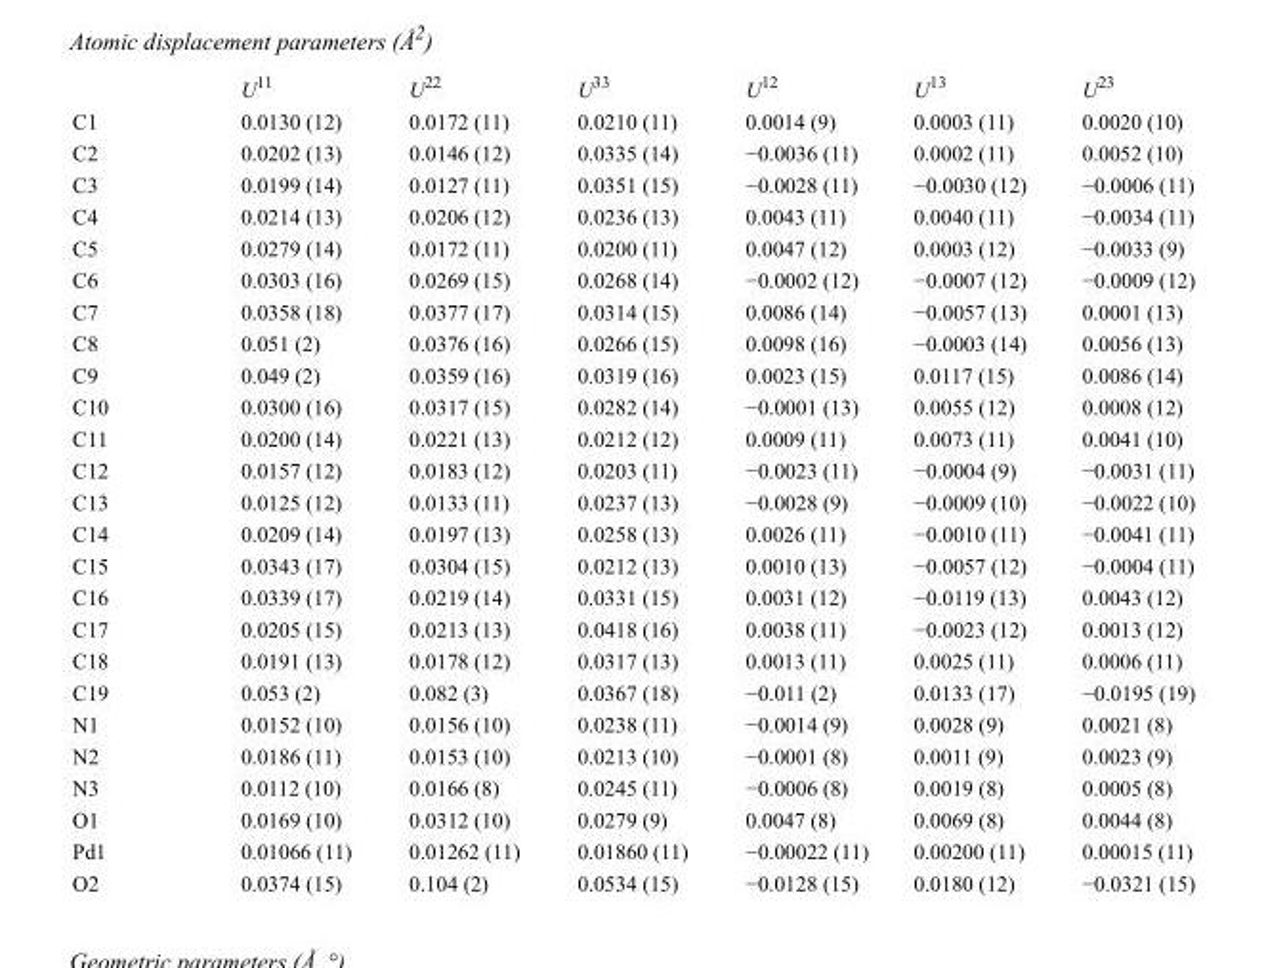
<table><thead><tr><td></td><td>U<sup>11</sup></td><td>U<sup>22</sup></td><td>U<sup>33</sup></td><td>U<sup>12</sup></td><td>U<sup>13</sup></td><td>U<sup>23</sup></td></tr></thead><tbody><tr><td>C1</td><td>0.0130 (12)</td><td>0.0172 (11)</td><td>0.0210 (11)</td><td>0.0014 (9)</td><td>0.0003 (11)</td><td>0.0020 (10)</td></tr><tr><td>C2</td><td>0.0202 (13)</td><td>0.0146 (12)</td><td>0.0335 (14)</td><td>−0.0036 (11)</td><td>0.0002 (11)</td><td>0.0052 (10)</td></tr><tr><td>C3</td><td>0.0199 (14)</td><td>0.0127 (11)</td><td>0.0351 (15)</td><td>−0.0028 (11)</td><td>−0.0030 (12)</td><td>−0.0006 (11)</td></tr><tr><td>C4</td><td>0.0214 (13)</td><td>0.0206 (12)</td><td>0.0236 (13)</td><td>0.0043 (11)</td><td>0.0040 (11)</td><td>−0.0034 (11)</td></tr><tr><td>C5</td><td>0.0279 (14)</td><td>0.0172 (11)</td><td>0.0200 (11)</td><td>0.0047 (12)</td><td>0.0003 (12)</td><td>−0.0033 (9)</td></tr><tr><td>C6</td><td>0.0303 (16)</td><td>0.0269 (15)</td><td>0.0268 (14)</td><td>−0.0002 (12)</td><td>−0.0007 (12)</td><td>−0.0009 (12)</td></tr><tr><td>C7</td><td>0.0358 (18)</td><td>0.0377 (17)</td><td>0.0314 (15)</td><td>0.0086 (14)</td><td>−0.0057 (13)</td><td>0.0001 (13)</td></tr><tr><td>C8</td><td>0.051 (2)</td><td>0.0376 (16)</td><td>0.0266 (15)</td><td>0.0098 (16)</td><td>−0.0003 (14)</td><td>0.0056 (13)</td></tr><tr><td>C9</td><td>0.049 (2)</td><td>0.0359 (16)</td><td>0.0319 (16)</td><td>0.0023 (15)</td><td>0.0117 (15)</td><td>0.0086 (14)</td></tr><tr><td>C10</td><td>0.0300 (16)</td><td>0.0317 (15)</td><td>0.0282 (14)</td><td>−0.0001 (13)</td><td>0.0055 (12)</td><td>0.0008 (12)</td></tr><tr><td>C11</td><td>0.0200 (14)</td><td>0.0221 (13)</td><td>0.0212 (12)</td><td>0.0009 (11)</td><td>0.0073 (11)</td><td>0.0041 (10)</td></tr><tr><td>C12</td><td>0.0157 (12)</td><td>0.0183 (12)</td><td>0.0203 (11)</td><td>−0.0023 (11)</td><td>−0.0004 (9)</td><td>−0.0031 (11)</td></tr><tr><td>C13</td><td>0.0125 (12)</td><td>0.0133 (11)</td><td>0.0237 (13)</td><td>−0.0028 (9)</td><td>−0.0009 (10)</td><td>−0.0022 (10)</td></tr><tr><td>C14</td><td>0.0209 (14)</td><td>0.0197 (13)</td><td>0.0258 (13)</td><td>0.0026 (11)</td><td>−0.0010 (11)</td><td>−0.0041 (11)</td></tr><tr><td>C15</td><td>0.0343 (17)</td><td>0.0304 (15)</td><td>0.0212 (13)</td><td>0.0010 (13)</td><td>−0.0057 (12)</td><td>−0.0004 (11)</td></tr><tr><td>C16</td><td>0.0339 (17)</td><td>0.0219 (14)</td><td>0.0331 (15)</td><td>0.0031 (12)</td><td>−0.0119 (13)</td><td>0.0043 (12)</td></tr><tr><td>C17</td><td>0.0205 (15)</td><td>0.0213 (13)</td><td>0.0418 (16)</td><td>0.0038 (11)</td><td>−0.0023 (12)</td><td>0.0013 (12)</td></tr><tr><td>C18</td><td>0.0191 (13)</td><td>0.0178 (12)</td><td>0.0317 (13)</td><td>0.0013 (11)</td><td>0.0025 (11)</td><td>0.0006 (11)</td></tr><tr><td>C19</td><td>0.053 (2)</td><td>0.082 (3)</td><td>0.0367 (18)</td><td>−0.011 (2)</td><td>0.0133 (17)</td><td>−0.0195 (19)</td></tr><tr><td>N1</td><td>0.0152 (10)</td><td>0.0156 (10)</td><td>0.0238 (11)</td><td>−0.0014 (9)</td><td>0.0028 (9)</td><td>0.0021 (8)</td></tr><tr><td>N2</td><td>0.0186 (11)</td><td>0.0153 (10)</td><td>0.0213 (10)</td><td>−0.0001 (8)</td><td>0.0011 (9)</td><td>0.0023 (9)</td></tr><tr><td>N3</td><td>0.0112 (10)</td><td>0.0166 (8)</td><td>0.0245 (11)</td><td>−0.0006 (8)</td><td>0.0019 (8)</td><td>0.0005 (8)</td></tr><tr><td>O1</td><td>0.0169 (10)</td><td>0.0312 (10)</td><td>0.0279 (9)</td><td>0.0047 (8)</td><td>0.0069 (8)</td><td>0.0044 (8)</td></tr><tr><td>Pd1</td><td>0.01066 (11)</td><td>0.01262 (11)</td><td>0.01860 (11)</td><td>−0.00022 (11)</td><td>0.00200 (11)</td><td>0.00015 (11)</td></tr><tr><td>O2</td><td>0.0374 (15)</td><td>0.104 (2)</td><td>0.0534 (15)</td><td>−0.0128 (15)</td><td>0.0180 (12)</td><td>−0.0321 (15)</td></tr></tbody></table>